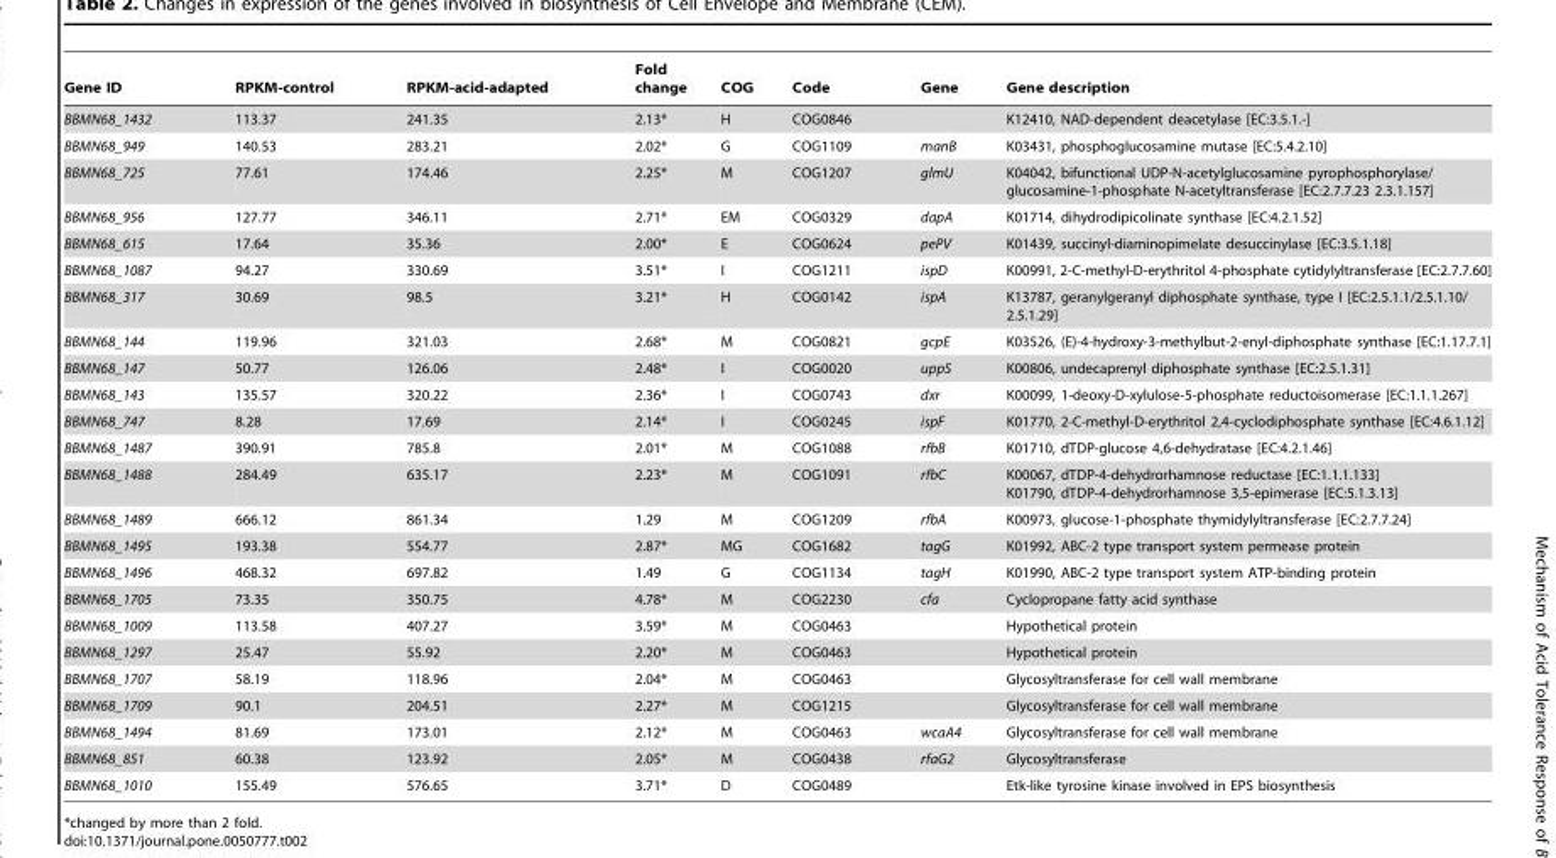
<table><thead><tr><td>Gene ID</td><td>RPKM-control</td><td>RPKM-acid-adapted</td><td>Fold change</td><td>COG</td><td>Code</td><td>Gene</td><td>Gene description</td></tr></thead><tbody><tr><td>BBMN68_1432</td><td>113.37</td><td>241.35</td><td>2.13*</td><td>H</td><td>COG0846</td><td></td><td>K12410, NAD-dependent deacetylase [EC:3.5.1.-]</td></tr><tr><td>BBMN68_949</td><td>140.53</td><td>283.21</td><td>2.02*</td><td>G</td><td>COG1109</td><td>manB</td><td>K03431, phosphoglucosamine mutase [EC:5.4.2.10]</td></tr><tr><td>BBMN68_725</td><td>77.61</td><td>174.46</td><td>2.25*</td><td>M</td><td>COG1207</td><td>glmU</td><td>K04042, bifunctional UDP-N-acetylglucosamine pyrophosphorylase/ glucosamine-1-phosphate N-acetyltransferase [EC:2.7.7.23 2.3.1.157]</td></tr><tr><td>BBMN68_956</td><td>127.77</td><td>346.11</td><td>2.71*</td><td>EM</td><td>COG0329</td><td>dapA</td><td>K01714, dihydrodipicolinate synthase [EC:4.2.1.52]</td></tr><tr><td>BBMN68_615</td><td>17.64</td><td>35.36</td><td>2.00*</td><td>E</td><td>COG0624</td><td>pePV</td><td>K01439, succinyl-diaminopimelate desuccinylase [EC:3.5.1.18]</td></tr><tr><td>BBMN68_1087</td><td>94.27</td><td>330.69</td><td>3.51*</td><td>I</td><td>COG1211</td><td>ispD</td><td>K00991, 2-C-methyl-D-erythritol 4-phosphate cytidylyltransferase [EC:2.7.7.60]</td></tr><tr><td>BBMN68_317</td><td>30.69</td><td>98.5</td><td>3.21*</td><td>H</td><td>COG0142</td><td>ispA</td><td>K13787, geranylgeranyl diphosphate synthase, type I [EC:2.5.1.1/2.5.1.10/ 2.5.1.29]</td></tr><tr><td>BBMN68_144</td><td>119.96</td><td>321.03</td><td>2.68*</td><td>M</td><td>COG0821</td><td>gcpE</td><td>K03526, (E)-4-hydroxy-3-methylbut-2-enyl-diphosphate synthase [EC:1.17.7.1]</td></tr><tr><td>BBMN68_147</td><td>50.77</td><td>126.06</td><td>2.48*</td><td>I</td><td>COG0020</td><td>uppS</td><td>K00806, undecaprenyl diphosphate synthase [EC:2.5.1.31]</td></tr><tr><td>BBMN68_143</td><td>135.57</td><td>320.22</td><td>2.36*</td><td>I</td><td>COG0743</td><td>dxr</td><td>K00099, 1-deoxy-D-xylulose-5-phosphate reductoisomerase [EC:1.1.1.267]</td></tr><tr><td>BBMN68_747</td><td>8.28</td><td>17.69</td><td>2.14*</td><td>I</td><td>COG0245</td><td>ispF</td><td>K01770, 2-C-methyl-D-erythritol 2,4-cyclodiphosphate synthase [EC:4.6.1.12]</td></tr><tr><td>BBMN68_1487</td><td>390.91</td><td>785.8</td><td>2.01*</td><td>M</td><td>COG1088</td><td>rfbB</td><td>K01710, dTDP-glucose 4,6-dehydratase [EC:4.2.1.46]</td></tr><tr><td>BBMN68_1488</td><td>284.49</td><td>635.17</td><td>2.23*</td><td>M</td><td>COG1091</td><td>rfbC</td><td>K00067, dTDP-4-dehydrorhamnose reductase [EC:1.1.1.133] K01790, dTDP-4-dehydrorhamnose 3,5-epimerase [EC:5.1.3.13]</td></tr><tr><td>BBMN68_1489</td><td>666.12</td><td>861.34</td><td>1.29</td><td>M</td><td>COG1209</td><td>rfbA</td><td>K00973, glucose-1-phosphate thymidylyltransferase [EC:2.7.7.24]</td></tr><tr><td>BBMN68_1495</td><td>193.38</td><td>554.77</td><td>2.87*</td><td>MG</td><td>COG1682</td><td>tagG</td><td>K01992, ABC-2 type transport system permease protein</td></tr><tr><td>BBMN68_1496</td><td>468.32</td><td>697.82</td><td>1.49</td><td>G</td><td>COG1134</td><td>tagH</td><td>K01990, ABC-2 type transport system ATP-binding protein</td></tr><tr><td>BBMN68_1705</td><td>73.35</td><td>350.75</td><td>4.78*</td><td>M</td><td>COG2230</td><td>cfa</td><td>Cyclopropane fatty acid synthase</td></tr><tr><td>BBMN68_1009</td><td>113.58</td><td>407.27</td><td>3.59*</td><td>M</td><td>COG0463</td><td></td><td>Hypothetical protein</td></tr><tr><td>BBMN68_1297</td><td>25.47</td><td>55.92</td><td>2.20*</td><td>M</td><td>COG0463</td><td></td><td>Hypothetical protein</td></tr><tr><td>BBMN68_1707</td><td>58.19</td><td>118.96</td><td>2.04*</td><td>M</td><td>COG0463</td><td></td><td>Glycosyltransferase for cell wall membrane</td></tr><tr><td>BBMN68_1709</td><td>90.1</td><td>204.51</td><td>2.27*</td><td>M</td><td>COG1215</td><td></td><td>Glycosyltransferase for cell wall membrane</td></tr><tr><td>BBMN68_1494</td><td>81.69</td><td>173.01</td><td>2.12*</td><td>M</td><td>COG0463</td><td>wcaA4</td><td>Glycosyltransferase for cell wall membrane</td></tr><tr><td>BBMN68_851</td><td>60.38</td><td>123.92</td><td>2.05*</td><td>M</td><td>COG0438</td><td>rfaG2</td><td>Glycosyltransferase</td></tr><tr><td>BBMN68_1010</td><td>155.49</td><td>576.65</td><td>3.71*</td><td>D</td><td>COG0489</td><td></td><td>Etk-like tyrosine kinase involved in EPS biosynthesis</td></tr></tbody></table>